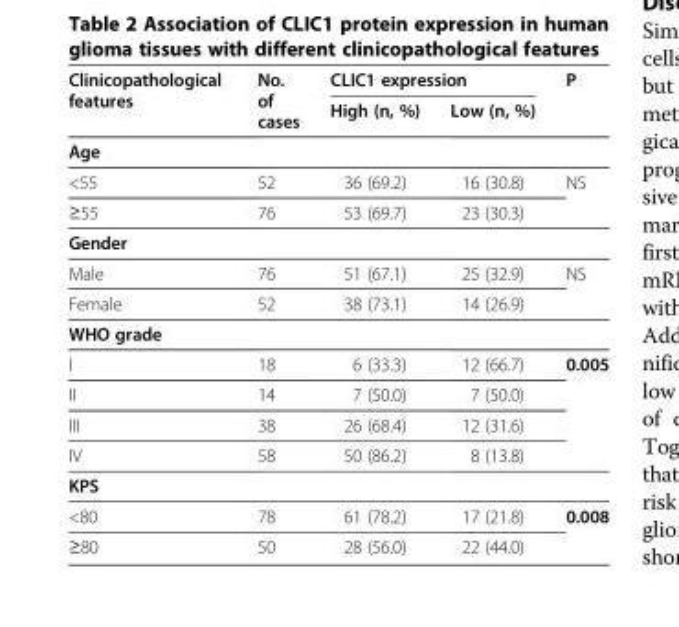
<table><thead><tr><td rowspan="2">Clinicopathological features</td><td rowspan="2">No. of cases</td><td colspan="2">CLIC1 expression</td><td rowspan="2">P</td></tr><tr><td>High (n, %)</td><td>Low (n, %)</td></tr></thead><tbody><tr><td colspan="5">Age</td></tr><tr><td>&lt;55</td><td>52</td><td>36 (69.2)</td><td>16 (30.8)</td><td rowspan="2">NS</td></tr><tr><td>≥55</td><td>76</td><td>53 (69.7)</td><td>23 (30.3)</td></tr><tr><td colspan="5">Gender</td></tr><tr><td>Male</td><td>76</td><td>51 (67.1)</td><td>25 (32.9)</td><td rowspan="2">NS</td></tr><tr><td>Female</td><td>52</td><td>38 (73.1)</td><td>14 (26.9)</td></tr><tr><td colspan="5">WHO grade</td></tr><tr><td>I</td><td>18</td><td>6 (33.3)</td><td>12 (66.7)</td><td rowspan="4">0.005</td></tr><tr><td>II</td><td>14</td><td>7 (50.0)</td><td>7 (50.0)</td></tr><tr><td>III</td><td>38</td><td>26 (68.4)</td><td>12 (31.6)</td></tr><tr><td>IV</td><td>58</td><td>50 (86.2)</td><td>8 (13.8)</td></tr><tr><td colspan="5">KPS</td></tr><tr><td>&lt;80</td><td>78</td><td>61 (78.2)</td><td>17 (21.8)</td><td rowspan="2">0.008</td></tr><tr><td>≥80</td><td>50</td><td>28 (56.0)</td><td>22 (44.0)</td></tr></tbody></table>